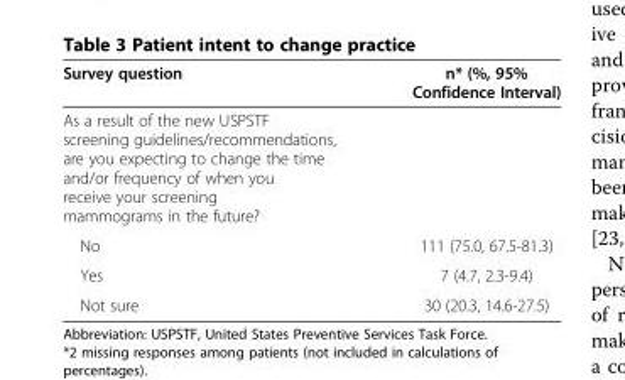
<table><thead><tr><td>Survey question</td><td>n* (%, 95% Confidence Interval)</td></tr></thead><tbody><tr><td colspan="2">As a result of the new USPSTF screening guidelines/recommendations, are you expecting to change the time and/or frequency of when you receive your screening mammograms in the future?</td></tr><tr><td>No</td><td>111 (75.0, 67.5-81.3)</td></tr><tr><td>Yes</td><td>7 (4.7, 2.3-9.4)</td></tr><tr><td>Not sure</td><td>30 (20.3, 14.6-27.5)</td></tr></tbody></table>